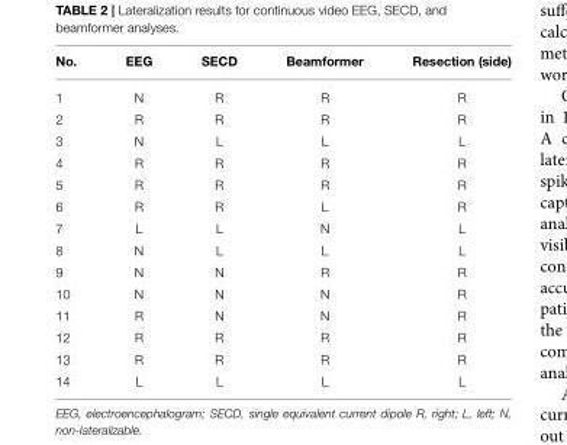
<table><thead><tr><td>No.</td><td>EEG</td><td>SECD</td><td>Beamformer</td><td>Resection (side)</td></tr></thead><tbody><tr><td>1</td><td>N</td><td>R</td><td>R</td><td>R</td></tr><tr><td>2</td><td>R</td><td>R</td><td>R</td><td>R</td></tr><tr><td>3</td><td>N</td><td>L</td><td>L</td><td>L</td></tr><tr><td>4</td><td>R</td><td>R</td><td>R</td><td>R</td></tr><tr><td>5</td><td>R</td><td>R</td><td>R</td><td>R</td></tr><tr><td>6</td><td>R</td><td>R</td><td>L</td><td>R</td></tr><tr><td>7</td><td>L</td><td>L</td><td>N</td><td>L</td></tr><tr><td>8</td><td>N</td><td>L</td><td>L</td><td>L</td></tr><tr><td>9</td><td>N</td><td>N</td><td>R</td><td>R</td></tr><tr><td>10</td><td>N</td><td>N</td><td>N</td><td>R</td></tr><tr><td>11</td><td>R</td><td>N</td><td>N</td><td>R</td></tr><tr><td>12</td><td>R</td><td>R</td><td>R</td><td>R</td></tr><tr><td>13</td><td>R</td><td>R</td><td>R</td><td>R</td></tr><tr><td>14</td><td>L</td><td>L</td><td>L</td><td>L</td></tr></tbody></table>